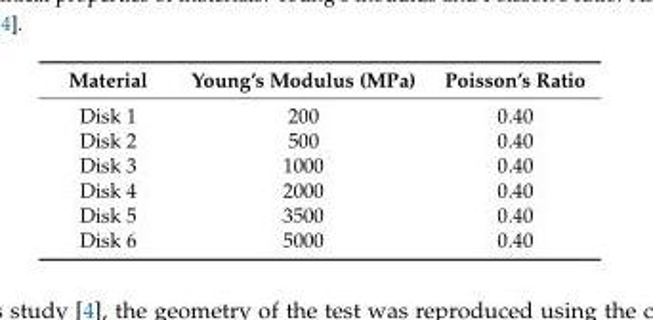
<table><thead><tr><td>Material</td><td>Young’s Modulus (MPa)</td><td>Poisson’s Ratio</td></tr></thead><tbody><tr><td>Disk 1</td><td>200</td><td>0.40</td></tr><tr><td>Disk 2</td><td>500</td><td>0.40</td></tr><tr><td>Disk 3</td><td>1000</td><td>0.40</td></tr><tr><td>Disk 4</td><td>2000</td><td>0.40</td></tr><tr><td>Disk 5</td><td>3500</td><td>0.40</td></tr><tr><td>Disk 6</td><td>5000</td><td>0.40</td></tr></tbody></table>